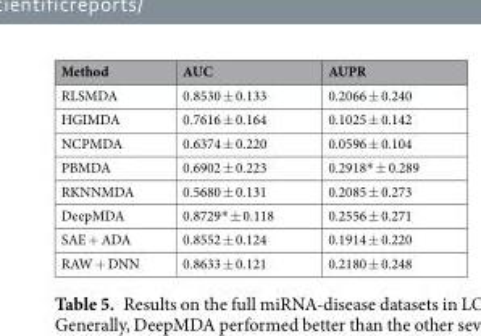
<table><thead><tr><td>Method</td><td>AUC</td><td>AUPR</td></tr></thead><tbody><tr><td>RLSMDA</td><td>0.8530 ± 0.133</td><td>0.2066 ± 0.240</td></tr><tr><td>HGIMDA</td><td>0.7616 ± 0.164</td><td>0.1025 ± 0.142</td></tr><tr><td>NCPMDA</td><td>0.6374 ± 0.220</td><td>0.0596 ± 0.104</td></tr><tr><td>PBMDA</td><td>0.6902 ± 0.223</td><td>0.2918* ± 0.289</td></tr><tr><td>RKNNMDA</td><td>0.5680 ± 0.131</td><td>0.2085 ± 0.273</td></tr><tr><td>DeepMDA</td><td>0.8729* ± 0.118</td><td>0.2556 ± 0.271</td></tr><tr><td>SAE + ADA</td><td>0.8552 ± 0.124</td><td>0.1914 ± 0.220</td></tr><tr><td>RAW + DNN</td><td>0.8633 ± 0.121</td><td>0.2180 ± 0.248</td></tr></tbody></table>